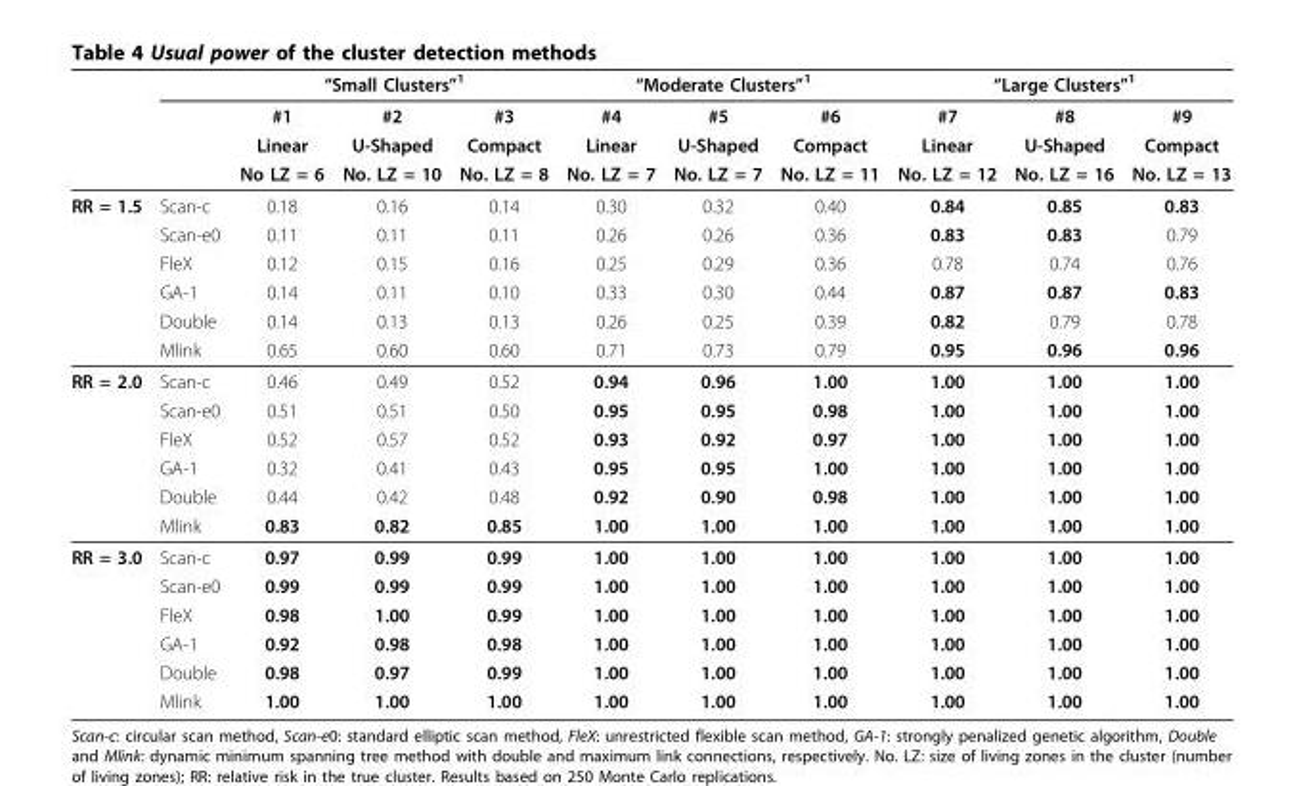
<table><thead><tr><td rowspan="4"></td><td rowspan="4"></td><td colspan="3">“Small Clusters”1</td><td colspan="3">“Moderate Clusters”1</td><td colspan="3">“Large Clusters”1</td></tr><tr><td rowspan="3">#1 Linear No LZ = 6</td><td rowspan="3">#2 U-Shaped No. LZ = 10</td><td rowspan="3">#3 Compact No. LZ = 8</td><td rowspan="3">#4 Linear No. LZ = 7</td><td rowspan="3">#5 U-Shaped No. LZ = 7</td><td rowspan="3">#6 Compact No. LZ = 11</td><td rowspan="3">#7 Linear No. LZ = 12</td><td rowspan="3">#8 U-Shaped No. LZ = 16</td><td rowspan="3">#9 Compact No. LZ = 13</td></tr><tr></tr><tr></tr></thead><tbody><tr><td rowspan="6">RR = 1.5</td><td>Scan-c</td><td>0.18</td><td>0.16</td><td>0.14</td><td>0.30</td><td>0.32</td><td>0.40</td><td>0.84</td><td>0.85</td><td>0.83</td></tr><tr><td>Scan-e0</td><td>0.11</td><td>0.11</td><td>0.11</td><td>0.26</td><td>0.26</td><td>0.36</td><td>0.83</td><td>0.83</td><td>0.79</td></tr><tr><td>FleX</td><td>0.12</td><td>0.15</td><td>0.16</td><td>0.25</td><td>0.29</td><td>0.36</td><td>0.78</td><td>0.74</td><td>0.76</td></tr><tr><td>GA-1</td><td>0.14</td><td>0.11</td><td>0.10</td><td>0.33</td><td>0.30</td><td>0.44</td><td>0.87</td><td>0.87</td><td>0.83</td></tr><tr><td>Double</td><td>0.14</td><td>0.13</td><td>0.13</td><td>0.26</td><td>0.25</td><td>0.39</td><td>0.82</td><td>0.79</td><td>0.78</td></tr><tr><td>Mlink</td><td>0.65</td><td>0.60</td><td>0.60</td><td>0.71</td><td>0.73</td><td>0.79</td><td>0.95</td><td>0.96</td><td>0.96</td></tr><tr><td rowspan="6">RR = 2.0</td><td>Scan-c</td><td>0.46</td><td>0.49</td><td>0.52</td><td>0.94</td><td>0.96</td><td>1.00</td><td>1.00</td><td>1.00</td><td>1.00</td></tr><tr><td>Scan-e0</td><td>0.51</td><td>0.51</td><td>0.50</td><td>0.95</td><td>0.95</td><td>0.98</td><td>1.00</td><td>1.00</td><td>1.00</td></tr><tr><td>FleX</td><td>0.52</td><td>0.57</td><td>0.52</td><td>0.93</td><td>0.92</td><td>0.97</td><td>1.00</td><td>1.00</td><td>1.00</td></tr><tr><td>GA-1</td><td>0.32</td><td>0.41</td><td>0.43</td><td>0.95</td><td>0.95</td><td>1.00</td><td>1.00</td><td>1.00</td><td>1.00</td></tr><tr><td>Double</td><td>0.44</td><td>0.42</td><td>0.48</td><td>0.92</td><td>0.90</td><td>0.98</td><td>1.00</td><td>1.00</td><td>1.00</td></tr><tr><td>Mlink</td><td>0.83</td><td>0.82</td><td>0.85</td><td>1.00</td><td>1.00</td><td>1.00</td><td>1.00</td><td>1.00</td><td>1.00</td></tr><tr><td rowspan="6">RR = 3.0</td><td>Scan-c</td><td>0.97</td><td>0.99</td><td>0.99</td><td>1.00</td><td>1.00</td><td>1.00</td><td>1.00</td><td>1.00</td><td>1.00</td></tr><tr><td>Scan-e0</td><td>0.99</td><td>0.99</td><td>0.99</td><td>1.00</td><td>1.00</td><td>1.00</td><td>1.00</td><td>1.00</td><td>1.00</td></tr><tr><td>FleX</td><td>0.98</td><td>1.00</td><td>0.99</td><td>1.00</td><td>1.00</td><td>1.00</td><td>1.00</td><td>1.00</td><td>1.00</td></tr><tr><td>GA-1</td><td>0.92</td><td>0.98</td><td>0.98</td><td>1.00</td><td>1.00</td><td>1.00</td><td>1.00</td><td>1.00</td><td>1.00</td></tr><tr><td>Double</td><td>0.98</td><td>0.97</td><td>0.99</td><td>1.00</td><td>1.00</td><td>1.00</td><td>1.00</td><td>1.00</td><td>1.00</td></tr><tr><td>Mlink</td><td>1.00</td><td>1.00</td><td>1.00</td><td>1.00</td><td>1.00</td><td>1.00</td><td>1.00</td><td>1.00</td><td>1.00</td></tr></tbody></table>